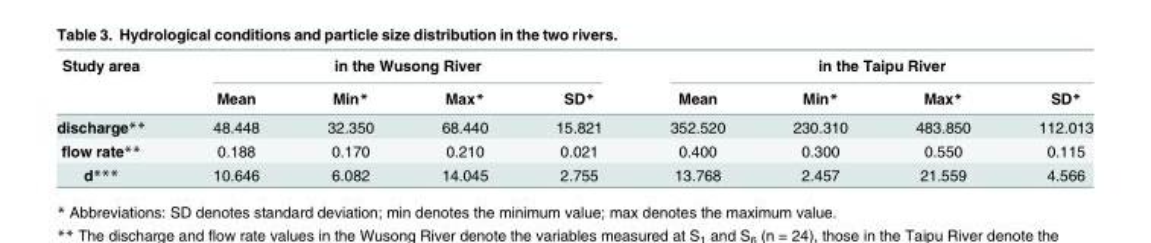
<table><thead><tr><td rowspan="2">Study area</td><td colspan="4">in the Wusong River</td><td colspan="4">in the Taipu River</td></tr><tr><td>Mean</td><td>Min*</td><td>Max*</td><td>SD*</td><td>Mean</td><td>Min*</td><td>Max*</td><td>SD*</td></tr></thead><tbody><tr><td>discharge**</td><td>48.448</td><td>32.350</td><td>68.440</td><td>15.821</td><td>352.520</td><td>230.310</td><td>483.850</td><td>112.013</td></tr><tr><td>flow rate**</td><td>0.188</td><td>0.170</td><td>0.210</td><td>0.021</td><td>0.400</td><td>0.300</td><td>0.550</td><td>0.115</td></tr><tr><td>d***</td><td>10.646</td><td>6.082</td><td>14.045</td><td>2.755</td><td>13.768</td><td>2.457</td><td>21.559</td><td>4.566</td></tr></tbody></table>